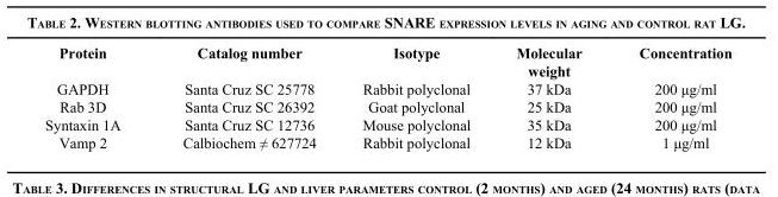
<table><thead><tr><td>Protein</td><td>Catalog number</td><td>Isotype</td><td>Molecular weight</td><td>Concentration</td></tr></thead><tbody><tr><td>GAPDH</td><td>Santa Cruz SC 25778</td><td>Rabbit polyclonal</td><td>37 kDa</td><td>200 μg/ml</td></tr><tr><td>Rab 3D</td><td>Santa Cruz SC 26392</td><td>Goat polyclonal</td><td>25 kDa</td><td>200 μg/ml</td></tr><tr><td>Syntaxin 1A</td><td>Santa Cruz SC 12736</td><td>Mouse polyclonal</td><td>35 kDa</td><td>200 μg/ml</td></tr><tr><td>Vamp 2</td><td>Calbiochem ≠ 627724</td><td>Rabbit polyclonal</td><td>12 kDa</td><td>1 μg/ml</td></tr></tbody></table>